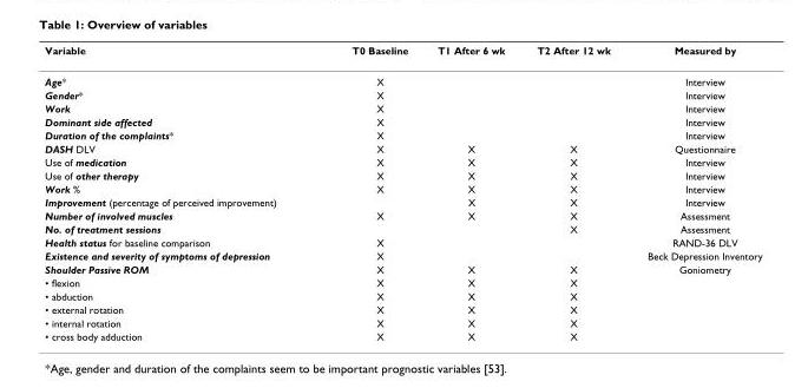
<table><thead><tr><td>Variable</td><td>T0 Baseline</td><td>T1 After 6 wk</td><td>T2 After 12 wk</td><td>Measured by</td></tr></thead><tbody><tr><td>Age*</td><td>X</td><td></td><td></td><td>Interview</td></tr><tr><td>Gender*</td><td>X</td><td></td><td></td><td>Interview</td></tr><tr><td>Work</td><td>X</td><td></td><td></td><td>Interview</td></tr><tr><td>Dominant side affected</td><td>X</td><td></td><td></td><td>Interview</td></tr><tr><td>Duration of the complaints*</td><td>X</td><td></td><td></td><td>Interview</td></tr><tr><td>DASH DLV</td><td>X</td><td>X</td><td>X</td><td>Questionnaire</td></tr><tr><td>Use of medication</td><td>X</td><td>X</td><td>X</td><td>Interview</td></tr><tr><td>Use of other therapy</td><td>X</td><td>X</td><td>X</td><td>Interview</td></tr><tr><td>Work %</td><td>X</td><td>X</td><td>X</td><td>Interview</td></tr><tr><td>Improvement (percentage of perceived improvement)</td><td></td><td>X</td><td>X</td><td>Interview</td></tr><tr><td>Number of involved muscles</td><td>X</td><td>X</td><td>X</td><td>Assessment</td></tr><tr><td>No. of treatment sessions</td><td></td><td></td><td>X</td><td>Assessment</td></tr><tr><td>Health status for baseline comparison</td><td>X</td><td></td><td></td><td>RAND-36 DLV</td></tr><tr><td>Existence and severity of symptoms of depression</td><td>X</td><td></td><td></td><td>Beck Depression Inventory</td></tr><tr><td>Shoulder Passive ROM</td><td>X</td><td>X</td><td>X</td><td>Goniometry</td></tr><tr><td>• flexion</td><td>X</td><td>X</td><td>X</td><td></td></tr><tr><td>• abduction</td><td>X</td><td>X</td><td>X</td><td></td></tr><tr><td>• external rotation</td><td>X</td><td>X</td><td>X</td><td></td></tr><tr><td>• internal rotation</td><td>X</td><td>X</td><td>X</td><td></td></tr><tr><td>• cross body adduction</td><td>X</td><td>X</td><td>X</td><td></td></tr></tbody></table>